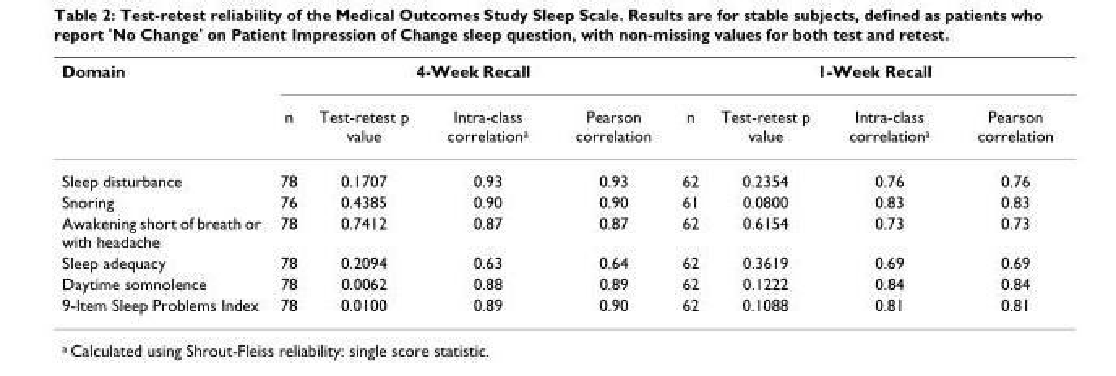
<table><thead><tr><td rowspan="2">Domain</td><td colspan="4">4-Week Recall</td><td colspan="4">1-Week Recall</td></tr><tr><td>n</td><td>Test-retest p value</td><td>Intra-class correlation<sup>a</sup></td><td>Pearson correlation</td><td>n</td><td>Test-retest p value</td><td>Intra-class correlation<sup>a</sup></td><td>Pearson correlation</td></tr></thead><tbody><tr><td>Sleep disturbance</td><td>78</td><td>0.1707</td><td>0.93</td><td>0.93</td><td>62</td><td>0.2354</td><td>0.76</td><td>0.76</td></tr><tr><td>Snoring</td><td>76</td><td>0.4385</td><td>0.90</td><td>0.90</td><td>61</td><td>0.0800</td><td>0.83</td><td>0.83</td></tr><tr><td>Awakening short of breath or with headache</td><td>78</td><td>0.7412</td><td>0.87</td><td>0.87</td><td>62</td><td>0.6154</td><td>0.73</td><td>0.73</td></tr><tr><td>Sleep adequacy</td><td>78</td><td>0.2094</td><td>0.63</td><td>0.64</td><td>62</td><td>0.3619</td><td>0.69</td><td>0.69</td></tr><tr><td>Daytime somnolence</td><td>78</td><td>0.0062</td><td>0.88</td><td>0.89</td><td>62</td><td>0.1222</td><td>0.84</td><td>0.84</td></tr><tr><td>9-Item Sleep Problems Index</td><td>78</td><td>0.0100</td><td>0.89</td><td>0.90</td><td>62</td><td>0.1088</td><td>0.81</td><td>0.81</td></tr></tbody></table>